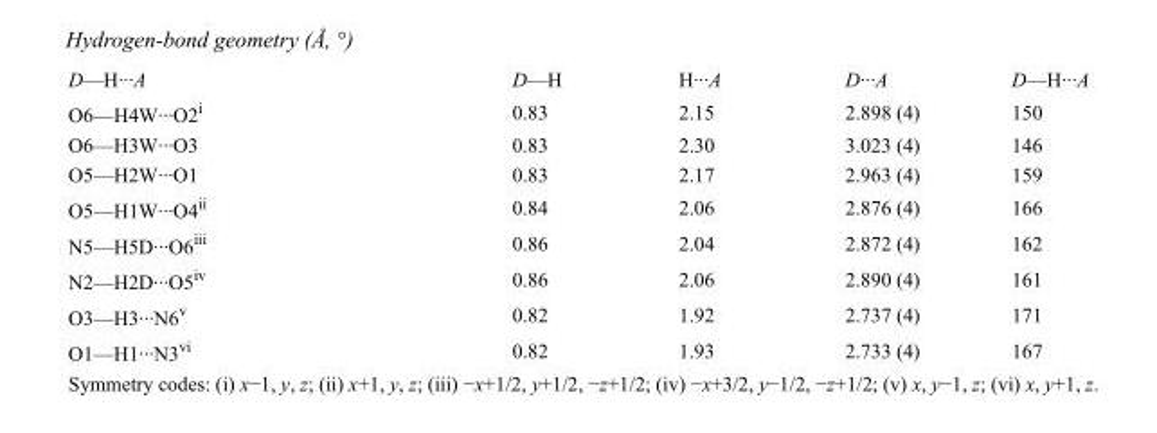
<table><tbody><tr><td>D—H···A</td><td>D—H</td><td>H···A</td><td>D···A</td><td>D—H···A</td></tr><tr><td>O6—H4W···O2<sup>i</sup></td><td>0.83</td><td>2.15</td><td>2.898 (4)</td><td>150</td></tr><tr><td>O6—H3W···O3</td><td>0.83</td><td>2.30</td><td>3.023 (4)</td><td>146</td></tr><tr><td>O5—H2W···O1</td><td>0.83</td><td>2.17</td><td>2.963 (4)</td><td>159</td></tr><tr><td>O5—H1W···O4<sup>ii</sup></td><td>0.84</td><td>2.06</td><td>2.876 (4)</td><td>166</td></tr><tr><td>N5—H5D···O6<sup>iii</sup></td><td>0.86</td><td>2.04</td><td>2.872 (4)</td><td>162</td></tr><tr><td>N2—H2D···O5<sup>iv</sup></td><td>0.86</td><td>2.06</td><td>2.890 (4)</td><td>161</td></tr><tr><td>O3—H3···N6<sup>v</sup></td><td>0.82</td><td>1.92</td><td>2.737 (4)</td><td>171</td></tr><tr><td>O1—H1···N3<sup>vi</sup></td><td>0.82</td><td>1.93</td><td>2.733 (4)</td><td>167</td></tr></tbody></table>